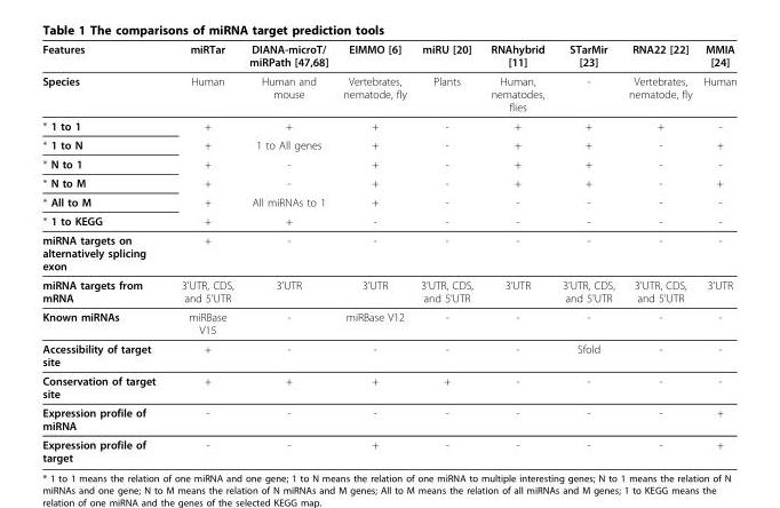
<table><thead><tr><td>Features</td><td>miRTar</td><td>DIANA-microT/ miRPath [47,68]</td><td>EIMMO [6]</td><td>miRU [20]</td><td>RNAhybrid [11]</td><td>STarMir [23]</td><td>RNA22 [22]</td><td>MMIA [24]</td></tr></thead><tbody><tr><td>Species</td><td>Human</td><td>Human and mouse</td><td>Vertebrates, nematode, fly</td><td>Plants</td><td>Human, nematodes, flies</td><td>-</td><td>Vertebrates, nematode, fly</td><td>Human</td></tr><tr><td>* 1 to 1</td><td>+</td><td>+</td><td>+</td><td>-</td><td>+</td><td>+</td><td>+</td><td>-</td></tr><tr><td>* 1 to N</td><td>+</td><td>1 to All genes</td><td>+</td><td>-</td><td>+</td><td>+</td><td>-</td><td>+</td></tr><tr><td>* N to 1</td><td>+</td><td>-</td><td>+</td><td>-</td><td>+</td><td>+</td><td>-</td><td>-</td></tr><tr><td>* N to M</td><td>+</td><td>-</td><td>+</td><td>-</td><td>+</td><td>+</td><td>-</td><td>+</td></tr><tr><td>* All to M</td><td>+</td><td>All miRNAs to 1</td><td>+</td><td>-</td><td>-</td><td>-</td><td>-</td><td>-</td></tr><tr><td>* 1 to KEGG</td><td>+</td><td>+</td><td>-</td><td>-</td><td>-</td><td>-</td><td>-</td><td>-</td></tr><tr><td>miRNA targets on alternatively splicing exon</td><td>+</td><td>-</td><td>-</td><td>-</td><td>-</td><td>-</td><td>-</td><td>-</td></tr><tr><td>miRNA targets from mRNA</td><td>3’UTR, CDS, and 5’UTR</td><td>3’UTR</td><td>3’UTR</td><td>3’UTR, CDS, and 5’UTR</td><td>3’UTR</td><td>3’UTR, CDS, and 5’UTR</td><td>3’UTR, CDS, and 5’UTR</td><td>3’UTR</td></tr><tr><td>Known miRNAs</td><td>miRBase V15</td><td>-</td><td>miRBase V12</td><td>-</td><td>-</td><td>-</td><td>-</td><td>-</td></tr><tr><td>Accessibility of target site</td><td>+</td><td>-</td><td>-</td><td>-</td><td>-</td><td>Sfold</td><td>-</td><td>-</td></tr><tr><td>Conservation of target site</td><td>+</td><td>+</td><td>+</td><td>+</td><td>-</td><td>-</td><td>-</td><td>-</td></tr><tr><td>Expression profile of miRNA</td><td>-</td><td>-</td><td>-</td><td>-</td><td>-</td><td>-</td><td>-</td><td>+</td></tr><tr><td>Expression profile of target</td><td>-</td><td>-</td><td>+</td><td>-</td><td>-</td><td>-</td><td>-</td><td>+</td></tr></tbody></table>